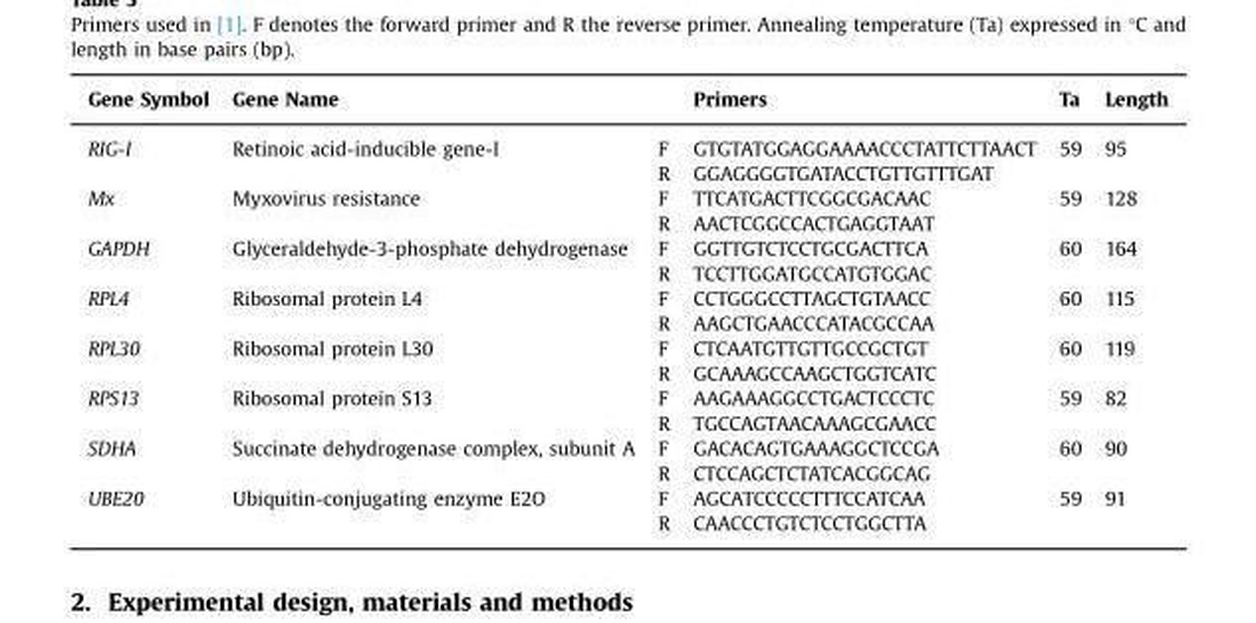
<table><thead><tr><td>Gene Symbol</td><td>Gene Name</td><td></td><td>Primers</td><td>Ta</td><td>Length</td></tr></thead><tbody><tr><td rowspan="2">RIG-I</td><td>Retinoic acid-inducible gene-I</td><td>F</td><td>GTGTATGGAGGAAAACCCTATTCTTAACT</td><td>59</td><td>95</td></tr><tr><td></td><td>R</td><td>GGAGGGGTGATACCTGTTGTTTGAT</td><td></td><td></td></tr><tr><td rowspan="2">Mx</td><td>Myxovirus resistance</td><td>F</td><td>TTCATGACTTCGGCGACAAC</td><td>59</td><td>128</td></tr><tr><td></td><td>R</td><td>AACTCGGCCACTGAGGTAAT</td><td></td><td></td></tr><tr><td rowspan="2">GAPDH</td><td>Glyceraldehyde-3-phosphate dehydrogenase</td><td>F</td><td>GGTTGTCTCCTGCGACTTCA</td><td>60</td><td>164</td></tr><tr><td></td><td>R</td><td>TCCTTGGATGCCATGTGGAC</td><td></td><td></td></tr><tr><td rowspan="2">RPL4</td><td>Ribosomal protein L4</td><td>F</td><td>CCTGGGCCTTAGCTGTAACC</td><td>60</td><td>115</td></tr><tr><td></td><td>R</td><td>AAGCTGAACCCATACGCCAA</td><td></td><td></td></tr><tr><td rowspan="2">RPL30</td><td>Ribosomal protein L30</td><td>F</td><td>CTCAATGTTGTTGCCGCTGT</td><td>60</td><td>119</td></tr><tr><td></td><td>R</td><td>GCAAAGCCAAGCTGGTCATC</td><td></td><td></td></tr><tr><td rowspan="2">RPS13</td><td>Ribosomal protein S13</td><td>F</td><td>AAGAAAGGCCTGACTCCCTC</td><td>59</td><td>82</td></tr><tr><td></td><td>R</td><td>TGCCAGTAACAAAGCGAACC</td><td></td><td></td></tr><tr><td rowspan="2">SDHA</td><td>Succinate dehydrogenase complex, subunit A</td><td>F</td><td>GACACAGTGAAAGGCTCCGA</td><td>60</td><td>90</td></tr><tr><td></td><td>R</td><td>CTCCAGCTCTATCACGGCAG</td><td></td><td></td></tr><tr><td rowspan="2">UBE20</td><td>Ubiquitin-conjugating enzyme E2O</td><td>F</td><td>AGCATCCCCCTTTCCATCAA</td><td>59</td><td>91</td></tr><tr><td></td><td>R</td><td>CAACCCTGTCTCCTGGCTTA</td><td></td><td></td></tr></tbody></table>